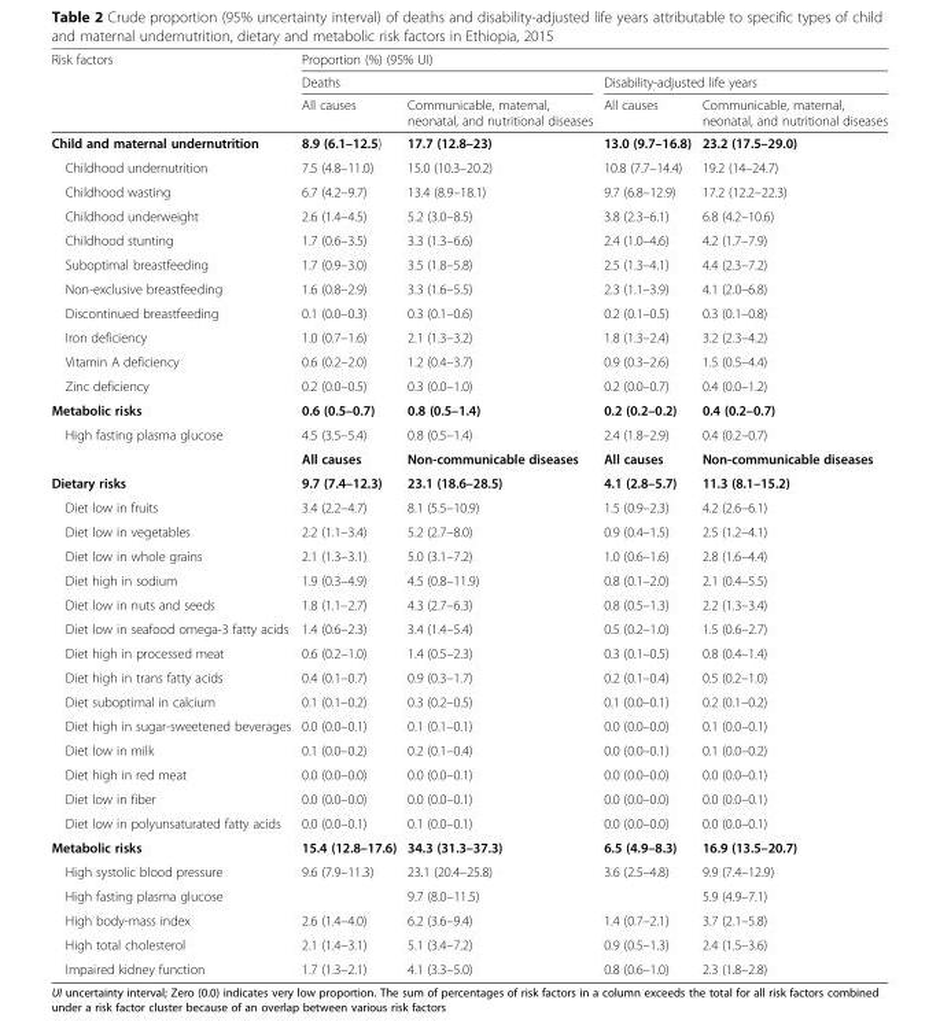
<table><thead><tr><td rowspan="3">Risk factors</td><td colspan="4">Proportion (%) (95% UI)</td></tr><tr><td colspan="2">Deaths</td><td colspan="2">Disability-adjusted life years</td></tr><tr><td>All causes</td><td>Communicable, maternal, neonatal, and nutritional diseases</td><td>All causes</td><td>Communicable, maternal, neonatal, and nutritional diseases</td></tr></thead><tbody><tr><td>Child and maternal undernutrition</td><td>8.9 (6.1–12.5)</td><td>17.7 (12.8–23)</td><td>13.0 (9.7–16.8)</td><td>23.2 (17.5–29.0)</td></tr><tr><td>Childhood undernutrition</td><td>7.5 (4.8–11.0)</td><td>15.0 (10.3–20.2)</td><td>10.8 (7.7–14.4)</td><td>19.2 (14–24.7)</td></tr><tr><td>Childhood wasting</td><td>6.7 (4.2–9.7)</td><td>13.4 (8.9–18.1)</td><td>9.7 (6.8–12.9)</td><td>17.2 (12.2–22.3)</td></tr><tr><td>Childhood underweight</td><td>2.6 (1.4–4.5)</td><td>5.2 (3.0–8.5)</td><td>3.8 (2.3–6.1)</td><td>6.8 (4.2–10.6)</td></tr><tr><td>Childhood stunting</td><td>1.7 (0.6–3.5)</td><td>3.3 (1.3–6.6)</td><td>2.4 (1.0–4.6)</td><td>4.2 (1.7–7.9)</td></tr><tr><td>Suboptimal breastfeeding</td><td>1.7 (0.9–3.0)</td><td>3.5 (1.8–5.8)</td><td>2.5 (1.3–4.1)</td><td>4.4 (2.3–7.2)</td></tr><tr><td>Non-exclusive breastfeeding</td><td>1.6 (0.8–2.9)</td><td>3.3 (1.6–5.5)</td><td>2.3 (1.1–3.9)</td><td>4.1 (2.0–6.8)</td></tr><tr><td>Discontinued breastfeeding</td><td>0.1 (0.0–0.3)</td><td>0.3 (0.1–0.6)</td><td>0.2 (0.1–0.5)</td><td>0.3 (0.1–0.8)</td></tr><tr><td>Iron deficiency</td><td>1.0 (0.7–1.6)</td><td>2.1 (1.3–3.2)</td><td>1.8 (1.3–2.4)</td><td>3.2 (2.3–4.2)</td></tr><tr><td>Vitamin A deficiency</td><td>0.6 (0.2–2.0)</td><td>1.2 (0.4–3.7)</td><td>0.9 (0.3–2.6)</td><td>1.5 (0.5–4.4)</td></tr><tr><td>Zinc deficiency</td><td>0.2 (0.0–0.5)</td><td>0.3 (0.0–1.0)</td><td>0.2 (0.0–0.7)</td><td>0.4 (0.0–1.2)</td></tr><tr><td>Metabolic risks</td><td>0.6 (0.5–0.7)</td><td>0.8 (0.5–1.4)</td><td>0.2 (0.2–0.2)</td><td>0.4 (0.2–0.7)</td></tr><tr><td rowspan="2">High fasting plasma glucose</td><td>4.5 (3.5–5.4)</td><td>0.8 (0.5–1.4)</td><td>2.4 (1.8–2.9)</td><td>0.4 (0.2–0.7)</td></tr><tr><td>All causes</td><td>Non-communicable diseases</td><td>All causes</td><td>Non-communicable diseases</td></tr><tr><td>Dietary risks</td><td>9.7 (7.4–12.3)</td><td>23.1 (18.6–28.5)</td><td>4.1 (2.8–5.7)</td><td>11.3 (8.1–15.2)</td></tr><tr><td>Diet low in fruits</td><td>3.4 (2.2–4.7)</td><td>8.1 (5.5–10.9)</td><td>1.5 (0.9–2.3)</td><td>4.2 (2.6–6.1)</td></tr><tr><td>Diet low in vegetables</td><td>2.2 (1.1–3.4)</td><td>5.2 (2.7–8.0)</td><td>0.9 (0.4–1.5)</td><td>2.5 (1.2–4.1)</td></tr><tr><td>Diet low in whole grains</td><td>2.1 (1.3–3.1)</td><td>5.0 (3.1–7.2)</td><td>1.0 (0.6–1.6)</td><td>2.8 (1.6–4.4)</td></tr><tr><td>Diet high in sodium</td><td>1.9 (0.3–4.9)</td><td>4.5 (0.8–11.9)</td><td>0.8 (0.1–2.0)</td><td>2.1 (0.4–5.5)</td></tr><tr><td>Diet low in nuts and seeds</td><td>1.8 (1.1–2.7)</td><td>4.3 (2.7–6.3)</td><td>0.8 (0.5–1.3)</td><td>2.2 (1.3–3.4)</td></tr><tr><td>Diet low in seafood omega-3 fatty acids</td><td>1.4 (0.6–2.3)</td><td>3.4 (1.4–5.4)</td><td>0.5 (0.2–1.0)</td><td>1.5 (0.6–2.7)</td></tr><tr><td>Diet high in processed meat</td><td>0.6 (0.2–1.0)</td><td>1.4 (0.5–2.3)</td><td>0.3 (0.1–0.5)</td><td>0.8 (0.4–1.4)</td></tr><tr><td>Diet high in trans fatty acids</td><td>0.4 (0.1–0.7)</td><td>0.9 (0.3–1.7)</td><td>0.2 (0.1–0.4)</td><td>0.5 (0.2–1.0)</td></tr><tr><td>Diet suboptimal in calcium</td><td>0.1 (0.1–0.2)</td><td>0.3 (0.2–0.5)</td><td>0.1 (0.0–0.1)</td><td>0.2 (0.1–0.2)</td></tr><tr><td>Diet high in sugar-sweetened beverages</td><td>0.0 (0.0–0.1)</td><td>0.1 (0.1–0.1)</td><td>0.0 (0.0–0.0)</td><td>0.1 (0.0–0.1)</td></tr><tr><td>Diet low in milk</td><td>0.1 (0.0–0.2)</td><td>0.2 (0.1–0.4)</td><td>0.0 (0.0–0.1)</td><td>0.1 (0.0–0.2)</td></tr><tr><td>Diet high in red meat</td><td>0.0 (0.0–0.0)</td><td>0.0 (0.0–0.1)</td><td>0.0 (0.0–0.0)</td><td>0.0 (0.0–0.1)</td></tr><tr><td>Diet low in fiber</td><td>0.0 (0.0–0.0)</td><td>0.0 (0.0–0.1)</td><td>0.0 (0.0–0.0)</td><td>0.0 (0.0–0.1)</td></tr><tr><td>Diet low in polyunsaturated fatty acids</td><td>0.0 (0.0–0.1)</td><td>0.1 (0.0–0.1)</td><td>0.0 (0.0–0.0)</td><td>0.0 (0.0–0.1)</td></tr><tr><td>Metabolic risks</td><td>15.4 (12.8–17.6)</td><td>34.3 (31.3–37.3)</td><td>6.5 (4.9–8.3)</td><td>16.9 (13.5–20.7)</td></tr><tr><td>High systolic blood pressure</td><td>9.6 (7.9–11.3)</td><td>23.1 (20.4–25.8)</td><td>3.6 (2.5–4.8)</td><td>9.9 (7.4–12.9)</td></tr><tr><td>High fasting plasma glucose</td><td></td><td>9.7 (8.0–11.5)</td><td></td><td>5.9 (4.9–7.1)</td></tr><tr><td>High body-mass index</td><td>2.6 (1.4–4.0)</td><td>6.2 (3.6–9.4)</td><td>1.4 (0.7–2.1)</td><td>3.7 (2.1–5.8)</td></tr><tr><td>High total cholesterol</td><td>2.1 (1.4–3.1)</td><td>5.1 (3.4–7.2)</td><td>0.9 (0.5–1.3)</td><td>2.4 (1.5–3.6)</td></tr><tr><td>Impaired kidney function</td><td>1.7 (1.3–2.1)</td><td>4.1 (3.3–5.0)</td><td>0.8 (0.6–1.0)</td><td>2.3 (1.8–2.8)</td></tr></tbody></table>